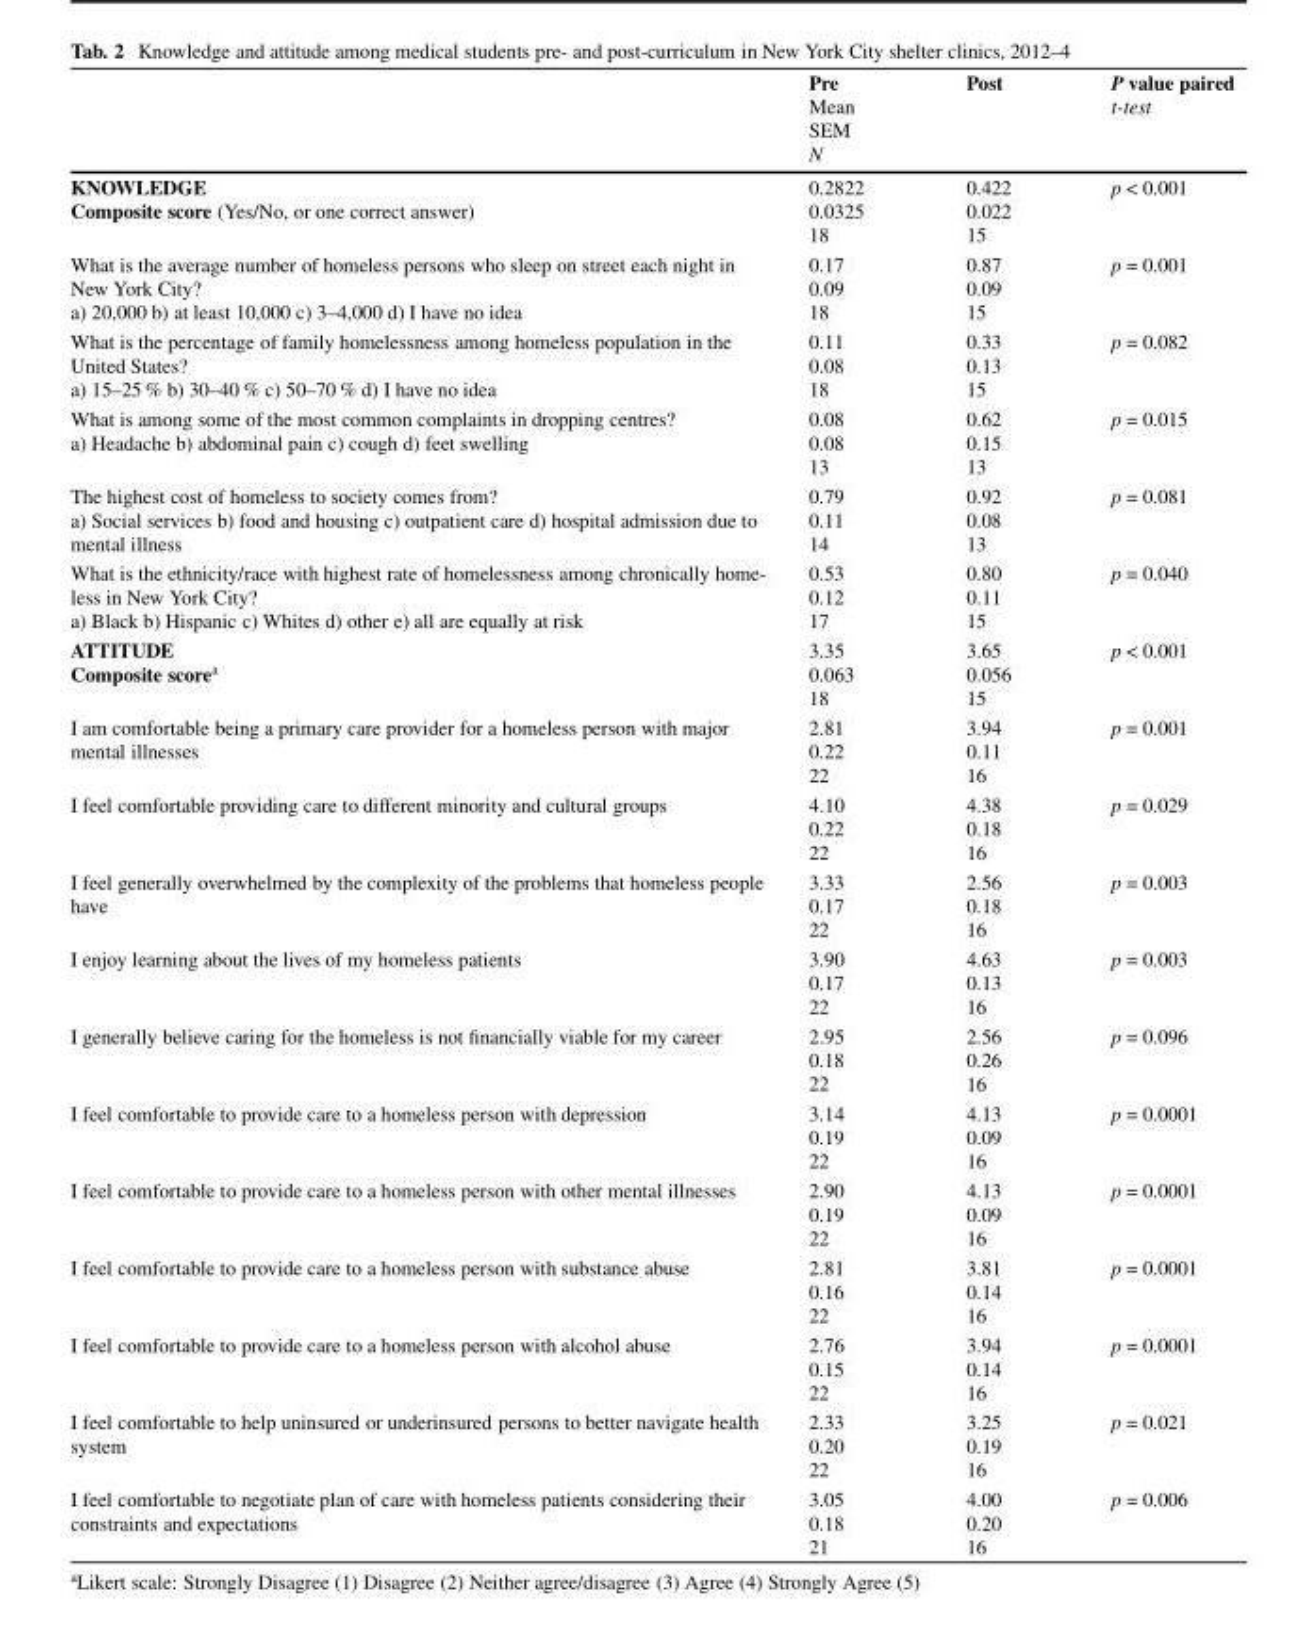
<table><thead><tr><td></td><td>Pre Mean SEM N</td><td>Post</td><td>P value paired t-test</td></tr></thead><tbody><tr><td>KNOWLEDGE Composite score (Yes/No, or one correct answer)</td><td>0.2822 0.0325 18</td><td>0.422 0.022 15</td><td>p &lt; 0.001</td></tr><tr><td>What is the average number of homeless persons who sleep on street each night in New York City? a) 20,000 b) at least 10,000 c) 3–4,000 d) I have no idea</td><td>0.17 0.09 18</td><td>0.87 0.09 15</td><td>p = 0.001</td></tr><tr><td>What is the percentage of family homelessness among homeless population in the United States? a) 15–25 % b) 30–40 % c) 50–70 % d) I have no idea</td><td>0.11 0.08 18</td><td>0.33 0.13 15</td><td>p = 0.082</td></tr><tr><td>What is among some of the most common complaints in dropping centres? a) Headache b) abdominal pain c) cough d) feet swelling</td><td>0.08 0.08 13</td><td>0.62 0.15 13</td><td>p = 0.015</td></tr><tr><td>The highest cost of homeless to society comes from? a) Social services b) food and housing c) outpatient care d) hospital admission due to mental illness</td><td>0.79 0.11 14</td><td>0.92 0.08 13</td><td>p = 0.081</td></tr><tr><td>What is the ethnicity/race with highest rate of homelessness among chronically home- less in New York City? a) Black b) Hispanic c) Whites d) other e) all are equally at risk</td><td>0.53 0.12 17</td><td>0.80 0.11 15</td><td>p = 0.040</td></tr><tr><td>ATTITUDE Composite score<sup>a</sup></td><td>3.35 0.063 18</td><td>3.65 0.056 15</td><td>p &lt; 0.001</td></tr><tr><td>I am comfortable being a primary care provider for a homeless person with major mental illnesses</td><td>2.81 0.22 22</td><td>3.94 0.11 16</td><td>p = 0.001</td></tr><tr><td>I feel comfortable providing care to different minority and cultural groups</td><td>4.10 0.22 22</td><td>4.38 0.18 16</td><td>p = 0.029</td></tr><tr><td>I feel generally overwhelmed by the complexity of the problems that homeless people have</td><td>3.33 0.17 22</td><td>2.56 0.18 16</td><td>p = 0.003</td></tr><tr><td>I enjoy learning about the lives of my homeless patients</td><td>3.90 0.17 22</td><td>4.63 0.13 16</td><td>p = 0.003</td></tr><tr><td>I generally believe caring for the homeless is not financially viable for my career</td><td>2.95 0.18 22</td><td>2.56 0.26 16</td><td>p = 0.096</td></tr><tr><td>I feel comfortable to provide care to a homeless person with depression</td><td>3.14 0.19 22</td><td>4.13 0.09 16</td><td>p = 0.0001</td></tr><tr><td>I feel comfortable to provide care to a homeless person with other mental illnesses</td><td>2.90 0.19 22</td><td>4.13 0.09 16</td><td>p = 0.0001</td></tr><tr><td>I feel comfortable to provide care to a homeless person with substance abuse</td><td>2.81 0.16 22</td><td>3.81 0.14 16</td><td>p = 0.0001</td></tr><tr><td>I feel comfortable to provide care to a homeless person with alcohol abuse</td><td>2.76 0.15 22</td><td>3.94 0.14 16</td><td>p = 0.0001</td></tr><tr><td>I feel comfortable to help uninsured or underinsured persons to better navigate health system</td><td>2.33 0.20 22</td><td>3.25 0.19 16</td><td>p = 0.021</td></tr><tr><td>I feel comfortable to negotiate plan of care with homeless patients considering their constraints and expectations</td><td>3.05 0.18 21</td><td>4.00 0.20 16</td><td>p = 0.006</td></tr></tbody></table>